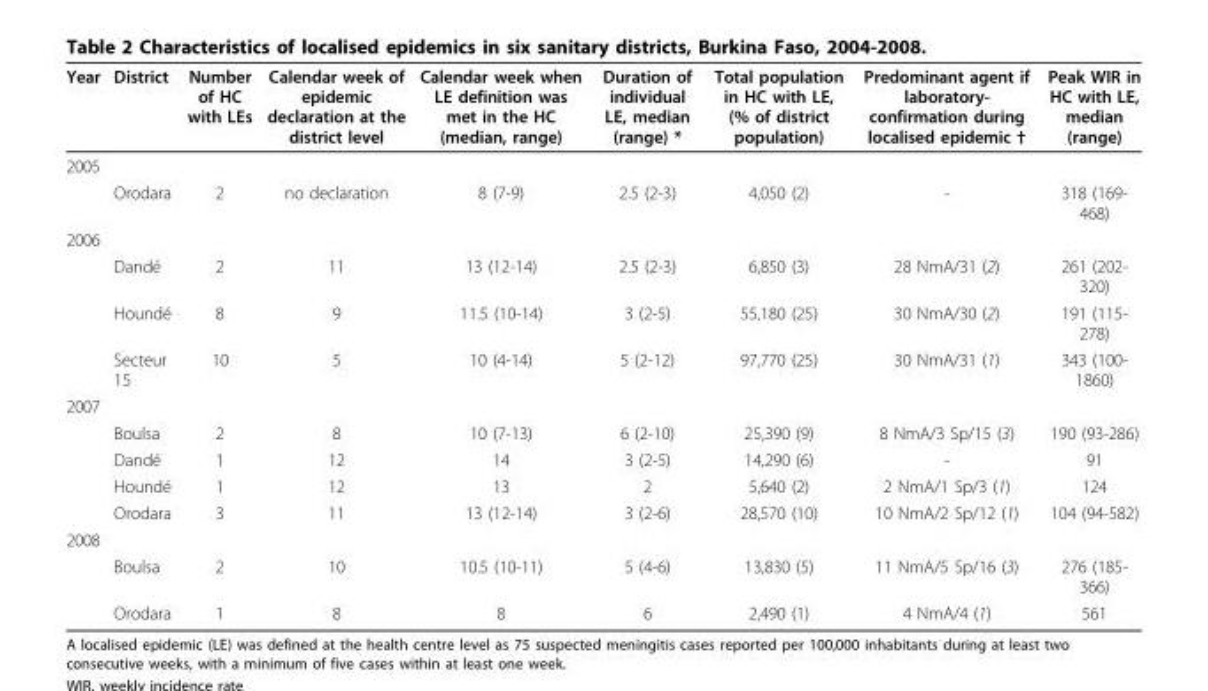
<table><thead><tr><td>Year</td><td>District</td><td>Number of HC with LEs</td><td>Calendar week of epidemic declaration at the district level</td><td>Calendar week when LE definition was met in the HC (median, range)</td><td>Duration of individual LE, median (range) *</td><td>Total population in HC with LE, (% of district population)</td><td>Predominant agent if laboratory- confirmation during localised epidemic †</td><td>Peak WIR in HC with LE, median (range)</td></tr></thead><tbody><tr><td colspan="9">2005</td></tr><tr><td></td><td>Orodara</td><td>2</td><td>no declaration</td><td>8 (7-9)</td><td>2.5 (2-3)</td><td>4,050 (2)</td><td>-</td><td>318 (169- 468)</td></tr><tr><td colspan="9">2006</td></tr><tr><td></td><td>Dandé</td><td>2</td><td>11</td><td>13 (12-14)</td><td>2.5 (2-3)</td><td>6,850 (3)</td><td>28 NmA/31 (2)</td><td>261 (202- 320)</td></tr><tr><td></td><td>Houndé</td><td>8</td><td>9</td><td>11.5 (10-14)</td><td>3 (2-5)</td><td>55,180 (25)</td><td>30 NmA/30 (2)</td><td>191 (115- 278)</td></tr><tr><td></td><td>Secteur 15</td><td>10</td><td>5</td><td>10 (4-14)</td><td>5 (2-12)</td><td>97,770 (25)</td><td>30 NmA/31 (1)</td><td>343 (100- 1860)</td></tr><tr><td colspan="9">2007</td></tr><tr><td></td><td>Boulsa</td><td>2</td><td>8</td><td>10 (7-13)</td><td>6 (2-10)</td><td>25,390 (9)</td><td>8 NmA/3 Sp/15 (3)</td><td>190 (93-286)</td></tr><tr><td></td><td>Dandé</td><td>1</td><td>12</td><td>14</td><td>3 (2-5)</td><td>14,290 (6)</td><td>-</td><td>91</td></tr><tr><td></td><td>Houndé</td><td>1</td><td>12</td><td>13</td><td>2</td><td>5,640 (2)</td><td>2 NmA/1 Sp/3 (1)</td><td>124</td></tr><tr><td></td><td>Orodara</td><td>3</td><td>11</td><td>13 (12-14)</td><td>3 (2-6)</td><td>28,570 (10)</td><td>10 NmA/2 Sp/12 (1)</td><td>104 (94-582)</td></tr><tr><td colspan="9">2008</td></tr><tr><td></td><td>Boulsa</td><td>2</td><td>10</td><td>10.5 (10-11)</td><td>5 (4-6)</td><td>13,830 (5)</td><td>11 NmA/5 Sp/16 (3)</td><td>276 (185- 366)</td></tr><tr><td></td><td>Orodara</td><td>1</td><td>8</td><td>8</td><td>6</td><td>2,490 (1)</td><td>4 NmA/4 (1)</td><td>561</td></tr></tbody></table>